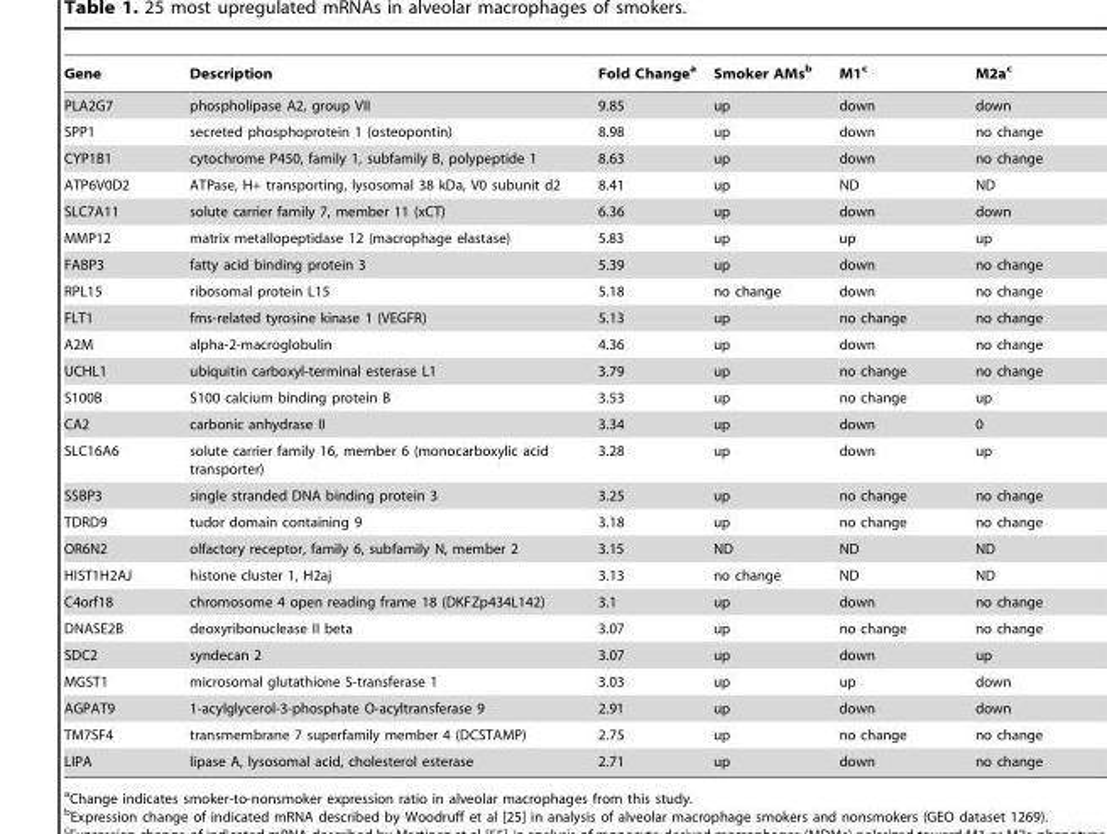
<table><thead><tr><td>Gene</td><td>Description</td><td>Fold Change<sup>a</sup></td><td>Smoker AMs<sup>b</sup></td><td>M1<sup>c</sup></td><td>M2a<sup>c</sup></td></tr></thead><tbody><tr><td>PLA2G7</td><td>phospholipase A2, group VII</td><td>9.85</td><td>up</td><td>down</td><td>down</td></tr><tr><td>SPP1</td><td>secreted phosphoprotein 1 (osteopontin)</td><td>8.98</td><td>up</td><td>down</td><td>no change</td></tr><tr><td>CYP1B1</td><td>cytochrome P450, family 1, subfamily B, polypeptide 1</td><td>8.63</td><td>up</td><td>down</td><td>no change</td></tr><tr><td>ATP6V0D2</td><td>ATPase, H+ transporting, lysosomal 38 kDa, V0 subunit d2</td><td>8.41</td><td>up</td><td>ND</td><td>ND</td></tr><tr><td>SLC7A11</td><td>solute carrier family 7, member 11 (xCT)</td><td>6.36</td><td>up</td><td>down</td><td>down</td></tr><tr><td>MMP12</td><td>matrix metallopeptidase 12 (macrophage elastase)</td><td>5.83</td><td>up</td><td>up</td><td>up</td></tr><tr><td>FABP3</td><td>fatty acid binding protein 3</td><td>5.39</td><td>up</td><td>down</td><td>no change</td></tr><tr><td>RPL15</td><td>ribosomal protein L15</td><td>5.18</td><td>no change</td><td>down</td><td>no change</td></tr><tr><td>FLT1</td><td>fms-related tyrosine kinase 1 (VEGFR)</td><td>5.13</td><td>up</td><td>no change</td><td>no change</td></tr><tr><td>A2M</td><td>alpha-2-macroglobulin</td><td>4.36</td><td>up</td><td>down</td><td>no change</td></tr><tr><td>UCHL1</td><td>ubiquitin carboxyl-terminal esterase L1</td><td>3.79</td><td>up</td><td>no change</td><td>no change</td></tr><tr><td>S100B</td><td>S100 calcium binding protein B</td><td>3.53</td><td>up</td><td>no change</td><td>up</td></tr><tr><td>CA2</td><td>carbonic anhydrase II</td><td>3.34</td><td>up</td><td>down</td><td>0</td></tr><tr><td>SLC16A6</td><td>solute carrier family 16, member 6 (monocarboxylic acid transporter)</td><td>3.28</td><td>up</td><td>down</td><td>up</td></tr><tr><td>SSBP3</td><td>single stranded DNA binding protein 3</td><td>3.25</td><td>up</td><td>no change</td><td>no change</td></tr><tr><td>TDRD9</td><td>tudor domain containing 9</td><td>3.18</td><td>up</td><td>no change</td><td>no change</td></tr><tr><td>OR6N2</td><td>olfactory receptor, family 6, subfamily N, member 2</td><td>3.15</td><td>ND</td><td>ND</td><td>ND</td></tr><tr><td>HIST1H2AJ</td><td>histone cluster 1, H2aj</td><td>3.13</td><td>no change</td><td>ND</td><td>ND</td></tr><tr><td>C4orf18</td><td>chromosome 4 open reading frame 18 (DKFZp434L142)</td><td>3.1</td><td>up</td><td>down</td><td>no change</td></tr><tr><td>DNASE2B</td><td>deoxyribonuclease II beta</td><td>3.07</td><td>up</td><td>no change</td><td>no change</td></tr><tr><td>SDC2</td><td>syndecan 2</td><td>3.07</td><td>up</td><td>down</td><td>up</td></tr><tr><td>MGST1</td><td>microsomal glutathione S-transferase 1</td><td>3.03</td><td>up</td><td>up</td><td>down</td></tr><tr><td>AGPAT9</td><td>1-acylglycerol-3-phosphate O-acyltransferase 9</td><td>2.91</td><td>up</td><td>down</td><td>down</td></tr><tr><td>TM7SF4</td><td>transmembrane 7 superfamily member 4 (DCSTAMP)</td><td>2.75</td><td>up</td><td>no change</td><td>no change</td></tr><tr><td>LIPA</td><td>lipase A, lysosomal acid, cholesterol esterase</td><td>2.71</td><td>up</td><td>down</td><td>no change</td></tr></tbody></table>